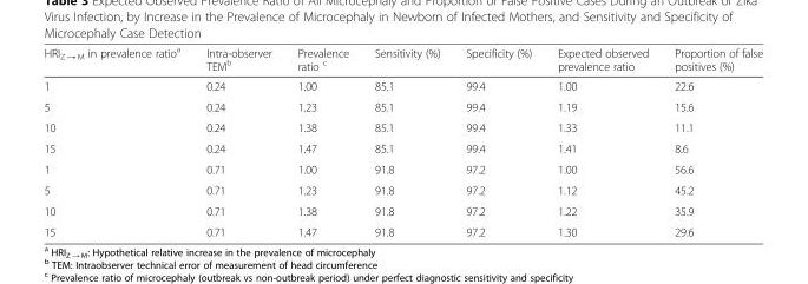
<table><thead><tr><td>HRI<sub>Z → M</sub> in prevalence ratio<sup>a</sup></td><td>Intra-observer TEM<sup>b</sup></td><td>Prevalence ratio <sup>c</sup></td><td>Sensitivity (%)</td><td>Specificity (%)</td><td>Expected observed prevalence ratio</td><td>Proportion of false positives (%)</td></tr></thead><tbody><tr><td>1</td><td>0.24</td><td>1.00</td><td>85.1</td><td>99.4</td><td>1.00</td><td>22.6</td></tr><tr><td>5</td><td>0.24</td><td>1.23</td><td>85.1</td><td>99.4</td><td>1.19</td><td>15.6</td></tr><tr><td>10</td><td>0.24</td><td>1.38</td><td>85.1</td><td>99.4</td><td>1.33</td><td>11.1</td></tr><tr><td>15</td><td>0.24</td><td>1.47</td><td>85.1</td><td>99.4</td><td>1.41</td><td>8.6</td></tr><tr><td>1</td><td>0.71</td><td>1.00</td><td>91.8</td><td>97.2</td><td>1.00</td><td>56.6</td></tr><tr><td>5</td><td>0.71</td><td>1.23</td><td>91.8</td><td>97.2</td><td>1.12</td><td>45.2</td></tr><tr><td>10</td><td>0.71</td><td>1.38</td><td>91.8</td><td>97.2</td><td>1.22</td><td>35.9</td></tr><tr><td>15</td><td>0.71</td><td>1.47</td><td>91.8</td><td>97.2</td><td>1.30</td><td>29.6</td></tr></tbody></table>